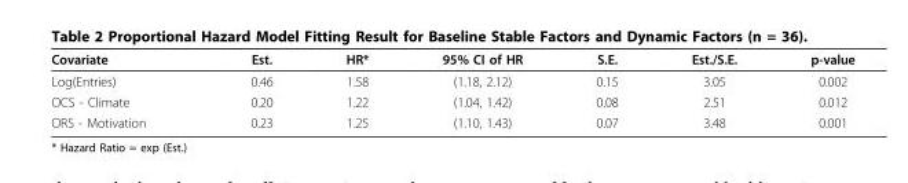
<table><thead><tr><td>Covariate</td><td>Est.</td><td>HR*</td><td>95% CI of HR</td><td>S.E.</td><td>Est./S.E.</td><td>p-value</td></tr></thead><tbody><tr><td>Log(Entries)</td><td>0.46</td><td>1.58</td><td>(1.18, 2.12)</td><td>0.15</td><td>3.05</td><td>0.002</td></tr><tr><td>OCS - Climate</td><td>0.20</td><td>1.22</td><td>(1.04, 1.42)</td><td>0.08</td><td>2.51</td><td>0.012</td></tr><tr><td>ORS - Motivation</td><td>0.23</td><td>1.25</td><td>(1.10, 1.43)</td><td>0.07</td><td>3.48</td><td>0.001</td></tr></tbody></table>